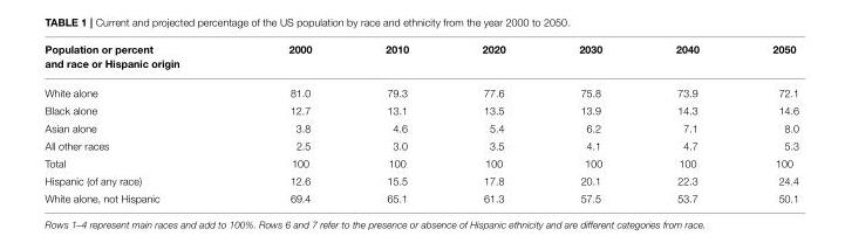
<table><thead><tr><td>Population or percent and race or Hispanic origin</td><td>2000</td><td>2010</td><td>2020</td><td>2030</td><td>2040</td><td>2050</td></tr></thead><tbody><tr><td>White alone</td><td>81.0</td><td>79.3</td><td>77.6</td><td>75.8</td><td>73.9</td><td>72.1</td></tr><tr><td>Black alone</td><td>12.7</td><td>13.1</td><td>13.5</td><td>13.9</td><td>14.3</td><td>14.6</td></tr><tr><td>Asian alone</td><td>3.8</td><td>4.6</td><td>5.4</td><td>6.2</td><td>7.1</td><td>8.0</td></tr><tr><td>All other races</td><td>2.5</td><td>3.0</td><td>3.5</td><td>4.1</td><td>4.7</td><td>5.3</td></tr><tr><td>Total</td><td>100</td><td>100</td><td>100</td><td>100</td><td>100</td><td>100</td></tr><tr><td>Hispanic (of any race)</td><td>12.6</td><td>15.5</td><td>17.8</td><td>20.1</td><td>22.3</td><td>24.4</td></tr><tr><td>White alone, not Hispanic</td><td>69.4</td><td>65.1</td><td>61.3</td><td>57.5</td><td>53.7</td><td>50.1</td></tr></tbody></table>